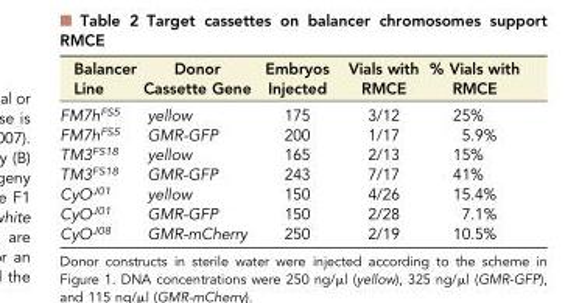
<table><thead><tr><td>Balancer Line</td><td>Donor Cassette Gene</td><td>Embryos Injected</td><td>Vials with RMCE</td><td>% Vials with RMCE</td></tr></thead><tbody><tr><td>FM7h<sup>FS5</sup></td><td>yellow</td><td>175</td><td>3/12</td><td>25%</td></tr><tr><td>FM7h<sup>FS5</sup></td><td>GMR-GFP</td><td>200</td><td>1/17</td><td>5.9%</td></tr><tr><td>TM3<sup>FS18</sup></td><td>yellow</td><td>165</td><td>2/13</td><td>15%</td></tr><tr><td>TM3<sup>FS18</sup></td><td>GMR-GFP</td><td>243</td><td>7/17</td><td>41%</td></tr><tr><td>CyO<sup>J01</sup></td><td>yellow</td><td>150</td><td>4/26</td><td>15.4%</td></tr><tr><td>CyO<sup>J01</sup></td><td>GMR-GFP</td><td>150</td><td>2/28</td><td>7.1%</td></tr><tr><td>CyO<sup>J08</sup></td><td>GMR-mCherry</td><td>250</td><td>2/19</td><td>10.5%</td></tr></tbody></table>